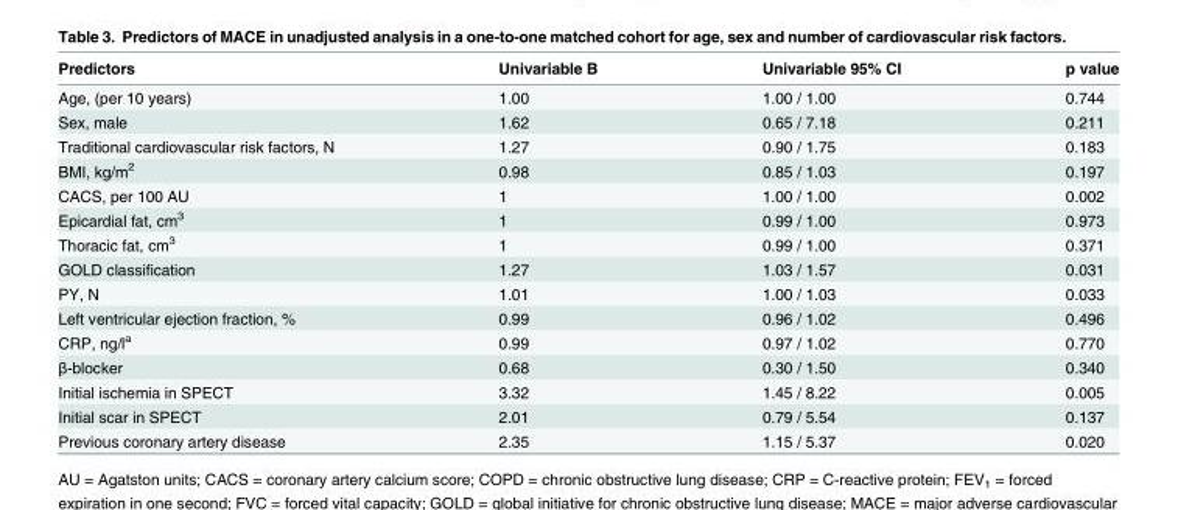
<table><thead><tr><td>Predictors</td><td>Univariable B</td><td>Univariable 95% CI</td><td>p value</td></tr></thead><tbody><tr><td>Age, (per 10 years)</td><td>1.00</td><td>1.00 / 1.00</td><td>0.744</td></tr><tr><td>Sex, male</td><td>1.62</td><td>0.65 / 7.18</td><td>0.211</td></tr><tr><td>Traditional cardiovascular risk factors, N</td><td>1.27</td><td>0.90 / 1.75</td><td>0.183</td></tr><tr><td>BMI, kg/m<sup>2</sup></td><td>0.98</td><td>0.85 / 1.03</td><td>0.197</td></tr><tr><td>CACS, per 100 AU</td><td>1</td><td>1.00 / 1.00</td><td>0.002</td></tr><tr><td>Epicardial fat, cm<sup>3</sup></td><td>1</td><td>0.99 / 1.00</td><td>0.973</td></tr><tr><td>Thoracic fat, cm<sup>3</sup></td><td>1</td><td>0.99 / 1.00</td><td>0.371</td></tr><tr><td>GOLD classification</td><td>1.27</td><td>1.03 / 1.57</td><td>0.031</td></tr><tr><td>PY, N</td><td>1.01</td><td>1.00 / 1.03</td><td>0.033</td></tr><tr><td>Left ventricular ejection fraction, %</td><td>0.99</td><td>0.96 / 1.02</td><td>0.496</td></tr><tr><td>CRP, ng/l<sup>a</sup></td><td>0.99</td><td>0.97 / 1.02</td><td>0.770</td></tr><tr><td>β-blocker</td><td>0.68</td><td>0.30 / 1.50</td><td>0.340</td></tr><tr><td>Initial ischemia in SPECT</td><td>3.32</td><td>1.45 / 8.22</td><td>0.005</td></tr><tr><td>Initial scar in SPECT</td><td>2.01</td><td>0.79 / 5.54</td><td>0.137</td></tr><tr><td>Previous coronary artery disease</td><td>2.35</td><td>1.15 / 5.37</td><td>0.020</td></tr></tbody></table>